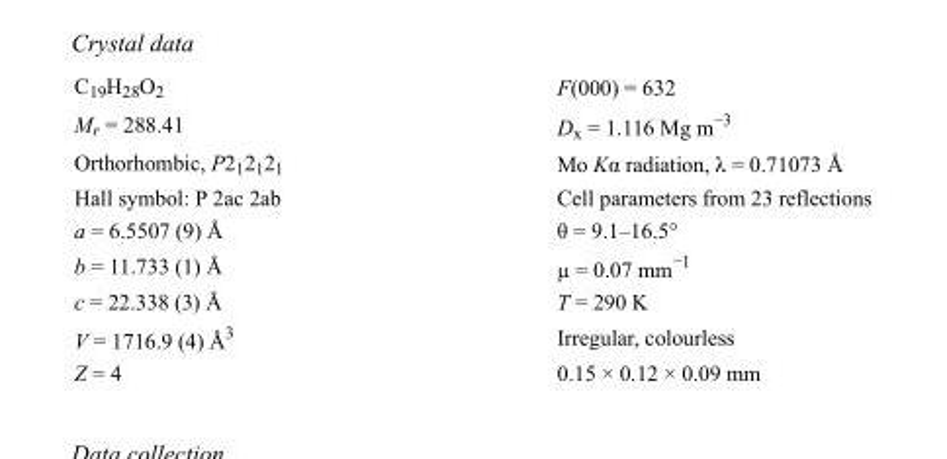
<table><tbody><tr><td>C<sub>19</sub>H<sub>28</sub>O<sub>2</sub></td><td>F(000) = 632</td></tr><tr><td>M<sub>r</sub> = 288.41</td><td>D<sub>x</sub> = 1.116 Mg m<sup>−3</sup></td></tr><tr><td>Orthorhombic, P2<sub>1</sub>2<sub>1</sub>2<sub>1</sub></td><td>Mo Kα radiation, λ = 0.71073 Å</td></tr><tr><td>Hall symbol: P 2ac 2ab</td><td>Cell parameters from 23 reflections</td></tr><tr><td>a = 6.5507 (9) Å</td><td>θ = 9.1–16.5°</td></tr><tr><td>b = 11.733 (1) Å</td><td>µ = 0.07 mm<sup>−1</sup></td></tr><tr><td>c = 22.338 (3) Å</td><td>T = 290 K</td></tr><tr><td>V = 1716.9 (4) Å<sup>3</sup></td><td>Irregular, colourless</td></tr><tr><td>Z = 4</td><td>0.15 × 0.12 × 0.09 mm</td></tr></tbody></table>